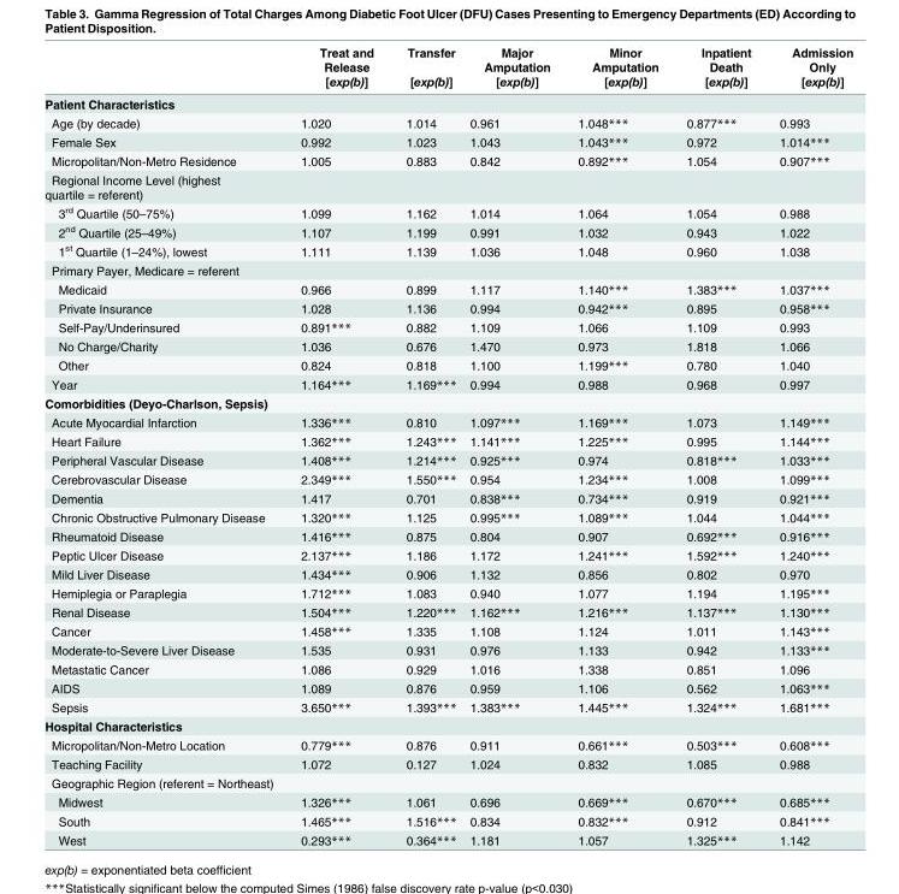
<table><thead><tr><td rowspan="2"></td><td rowspan="2">Treat and Release [exp(b)]</td><td rowspan="2">Transfer [exp(b)]</td><td rowspan="2">Major Amputation [exp(b)]</td><td rowspan="2">Minor Amputation [exp(b)]</td><td rowspan="2">Inpatient Death [exp(b)]</td><td rowspan="2">Admission Only [exp(b)]</td></tr><tr></tr></thead><tbody><tr><td colspan="7">Patient Characteristics</td></tr><tr><td>Age (by decade)</td><td>1.020</td><td>1.014</td><td>0.961</td><td>1.048***</td><td>0.877***</td><td>0.993</td></tr><tr><td>Female Sex</td><td>0.992</td><td>1.023</td><td>1.043</td><td>1.043***</td><td>0.972</td><td>1.014***</td></tr><tr><td>Micropolitan/Non-Metro Residence</td><td>1.005</td><td>0.883</td><td>0.842</td><td>0.892***</td><td>1.054</td><td>0.907***</td></tr><tr><td colspan="7">Regional Income Level (highest quartile = referent)</td></tr><tr><td>3<sup>rd</sup> Quartile (50–75%)</td><td>1.099</td><td>1.162</td><td>1.014</td><td>1.064</td><td>1.054</td><td>0.988</td></tr><tr><td>2<sup>nd</sup> Quartile (25–49%)</td><td>1.107</td><td>1.199</td><td>0.991</td><td>1.032</td><td>0.943</td><td>1.022</td></tr><tr><td>1<sup>st</sup> Quartile (1–24%), lowest</td><td>1.111</td><td>1.139</td><td>1.036</td><td>1.048</td><td>0.960</td><td>1.038</td></tr><tr><td colspan="7">Primary Payer, Medicare = referent</td></tr><tr><td>Medicaid</td><td>0.966</td><td>0.899</td><td>1.117</td><td>1.140***</td><td>1.383***</td><td>1.037***</td></tr><tr><td>Private Insurance</td><td>1.028</td><td>1.136</td><td>0.994</td><td>0.942***</td><td>0.895</td><td>0.958***</td></tr><tr><td>Self-Pay/Underinsured</td><td>0.891***</td><td>0.882</td><td>1.109</td><td>1.066</td><td>1.109</td><td>0.993</td></tr><tr><td>No Charge/Charity</td><td>1.036</td><td>0.676</td><td>1.470</td><td>0.973</td><td>1.818</td><td>1.066</td></tr><tr><td>Other</td><td>0.824</td><td>0.818</td><td>1.100</td><td>1.199***</td><td>0.780</td><td>1.040</td></tr><tr><td>Year</td><td>1.164***</td><td>1.169***</td><td>0.994</td><td>0.988</td><td>0.968</td><td>0.997</td></tr><tr><td colspan="7">Comorbidities (Deyo-Charlson, Sepsis)</td></tr><tr><td>Acute Myocardial Infarction</td><td>1.336***</td><td>0.810</td><td>1.097***</td><td>1.169***</td><td>1.073</td><td>1.149***</td></tr><tr><td>Heart Failure</td><td>1.362***</td><td>1.243***</td><td>1.141***</td><td>1.225***</td><td>0.995</td><td>1.144***</td></tr><tr><td>Peripheral Vascular Disease</td><td>1.408***</td><td>1.214***</td><td>0.925***</td><td>0.974</td><td>0.818***</td><td>1.033***</td></tr><tr><td>Cerebrovascular Disease</td><td>2.349***</td><td>1.550***</td><td>0.954</td><td>1.234***</td><td>1.008</td><td>1.099***</td></tr><tr><td>Dementia</td><td>1.417</td><td>0.701</td><td>0.838***</td><td>0.734***</td><td>0.919</td><td>0.921***</td></tr><tr><td>Chronic Obstructive Pulmonary Disease</td><td>1.320***</td><td>1.125</td><td>0.995***</td><td>1.089***</td><td>1.044</td><td>1.044***</td></tr><tr><td>Rheumatoid Disease</td><td>1.416***</td><td>0.875</td><td>0.804</td><td>0.907</td><td>0.692***</td><td>0.916***</td></tr><tr><td>Peptic Ulcer Disease</td><td>2.137***</td><td>1.186</td><td>1.172</td><td>1.241***</td><td>1.592***</td><td>1.240***</td></tr><tr><td>Mild Liver Disease</td><td>1.434***</td><td>0.906</td><td>1.132</td><td>0.856</td><td>0.802</td><td>0.970</td></tr><tr><td>Hemiplegia or Paraplegia</td><td>1.712***</td><td>1.083</td><td>0.940</td><td>1.077</td><td>1.194</td><td>1.195***</td></tr><tr><td>Renal Disease</td><td>1.504***</td><td>1.220***</td><td>1.162***</td><td>1.216***</td><td>1.137***</td><td>1.130***</td></tr><tr><td>Cancer</td><td>1.458***</td><td>1.335</td><td>1.108</td><td>1.124</td><td>1.011</td><td>1.143***</td></tr><tr><td>Moderate-to-Severe Liver Disease</td><td>1.535</td><td>0.931</td><td>0.976</td><td>1.133</td><td>0.942</td><td>1.133***</td></tr><tr><td>Metastatic Cancer</td><td>1.086</td><td>0.929</td><td>1.016</td><td>1.338</td><td>0.851</td><td>1.096</td></tr><tr><td>AIDS</td><td>1.089</td><td>0.876</td><td>0.959</td><td>1.106</td><td>0.562</td><td>1.063***</td></tr><tr><td>Sepsis</td><td>3.650***</td><td>1.393***</td><td>1.383***</td><td>1.445***</td><td>1.324***</td><td>1.681***</td></tr><tr><td colspan="7">Hospital Characteristics</td></tr><tr><td>Micropolitan/Non-Metro Location</td><td>0.779***</td><td>0.876</td><td>0.911</td><td>0.661***</td><td>0.503***</td><td>0.608***</td></tr><tr><td>Teaching Facility</td><td>1.072</td><td>0.127</td><td>1.024</td><td>0.832</td><td>1.085</td><td>0.988</td></tr><tr><td colspan="7">Geographic Region (referent = Northeast)</td></tr><tr><td>Midwest</td><td>1.326***</td><td>1.061</td><td>0.696</td><td>0.669***</td><td>0.670***</td><td>0.685***</td></tr><tr><td>South</td><td>1.465***</td><td>1.516***</td><td>0.834</td><td>0.832***</td><td>0.912</td><td>0.841***</td></tr><tr><td>West</td><td>0.293***</td><td>0.364***</td><td>1.181</td><td>1.057</td><td>1.325***</td><td>1.142</td></tr></tbody></table>